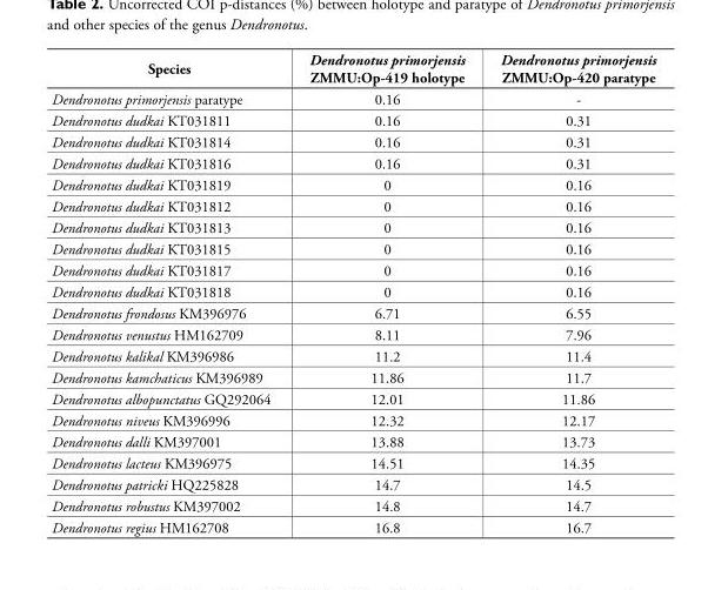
<table><thead><tr><td>Species</td><td>Dendronotus primorjensis ZMMU:Op-419 holotype</td><td>Dendronotus primorjensis ZMMU:Op-420 paratype</td></tr></thead><tbody><tr><td>Dendronotus primorjensis paratype</td><td>0.16</td><td>-</td></tr><tr><td>Dendronotus dudkai KT031811</td><td>0.16</td><td>0.31</td></tr><tr><td>Dendronotus dudkai KT031814</td><td>0.16</td><td>0.31</td></tr><tr><td>Dendronotus dudkai KT031816</td><td>0.16</td><td>0.31</td></tr><tr><td>Dendronotus dudkai KT031819</td><td>0</td><td>0.16</td></tr><tr><td>Dendronotus dudkai KT031812</td><td>0</td><td>0.16</td></tr><tr><td>Dendronotus dudkai KT031813</td><td>0</td><td>0.16</td></tr><tr><td>Dendronotus dudkai KT031815</td><td>0</td><td>0.16</td></tr><tr><td>Dendronotus dudkai KT031817</td><td>0</td><td>0.16</td></tr><tr><td>Dendronotus dudkai KT031818</td><td>0</td><td>0.16</td></tr><tr><td>Dendronotus frondosus KM396976</td><td>6.71</td><td>6.55</td></tr><tr><td>Dendronotus venustus HM162709</td><td>8.11</td><td>7.96</td></tr><tr><td>Dendronotus kalikal KM396986</td><td>11.2</td><td>11.4</td></tr><tr><td>Dendronotus kamchaticus KM396989</td><td>11.86</td><td>11.7</td></tr><tr><td>Dendronotus albopunctatus GQ292064</td><td>12.01</td><td>11.86</td></tr><tr><td>Dendronotus niveus KM396996</td><td>12.32</td><td>12.17</td></tr><tr><td>Dendronotus dalli KM397001</td><td>13.88</td><td>13.73</td></tr><tr><td>Dendronotus lacteus KM396975</td><td>14.51</td><td>14.35</td></tr><tr><td>Dendronotus patricki HQ225828</td><td>14.7</td><td>14.5</td></tr><tr><td>Dendronotus robustus KM397002</td><td>14.8</td><td>14.7</td></tr><tr><td>Dendronotus regius HM162708</td><td>16.8</td><td>16.7</td></tr></tbody></table>